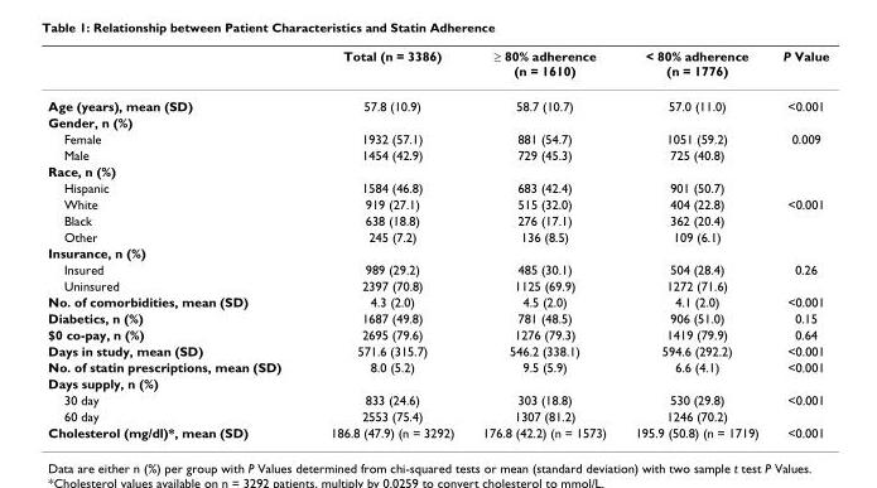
<table><thead><tr><td></td><td>Total (n = 3386)</td><td>≥ 80% adherence (n = 1610)</td><td>&lt; 80% adherence (n = 1776)</td><td>P Value</td></tr></thead><tbody><tr><td>Age (years), mean (SD)</td><td>57.8 (10.9)</td><td>58.7 (10.7)</td><td>57.0 (11.0)</td><td>&lt;0.001</td></tr><tr><td colspan="5">Gender, n (%)</td></tr><tr><td>Female</td><td>1932 (57.1)</td><td>881 (54.7)</td><td>1051 (59.2)</td><td>0.009</td></tr><tr><td>Male</td><td>1454 (42.9)</td><td>729 (45.3)</td><td>725 (40.8)</td><td></td></tr><tr><td colspan="5">Race, n (%)</td></tr><tr><td>Hispanic</td><td>1584 (46.8)</td><td>683 (42.4)</td><td>901 (50.7)</td><td></td></tr><tr><td>White</td><td>919 (27.1)</td><td>515 (32.0)</td><td>404 (22.8)</td><td>&lt;0.001</td></tr><tr><td>Black</td><td>638 (18.8)</td><td>276 (17.1)</td><td>362 (20.4)</td><td></td></tr><tr><td>Other</td><td>245 (7.2)</td><td>136 (8.5)</td><td>109 (6.1)</td><td></td></tr><tr><td colspan="5">Insurance, n (%)</td></tr><tr><td>Insured</td><td>989 (29.2)</td><td>485 (30.1)</td><td>504 (28.4)</td><td>0.26</td></tr><tr><td>Uninsured</td><td>2397 (70.8)</td><td>1125 (69.9)</td><td>1272 (71.6)</td><td></td></tr><tr><td>No. of comorbidities, mean (SD)</td><td>4.3 (2.0)</td><td>4.5 (2.0)</td><td>4.1 (2.0)</td><td>&lt;0.001</td></tr><tr><td>Diabetics, n (%)</td><td>1687 (49.8)</td><td>781 (48.5)</td><td>906 (51.0)</td><td>0.15</td></tr><tr><td>$0 co-pay, n (%)</td><td>2695 (79.6)</td><td>1276 (79.3)</td><td>1419 (79.9)</td><td>0.64</td></tr><tr><td>Days in study, mean (SD)</td><td>571.6 (315.7)</td><td>546.2 (338.1)</td><td>594.6 (292.2)</td><td>&lt;0.001</td></tr><tr><td>No. of statin prescriptions, mean (SD)</td><td>8.0 (5.2)</td><td>9.5 (5.9)</td><td>6.6 (4.1)</td><td>&lt;0.001</td></tr><tr><td colspan="5">Days supply, n (%)</td></tr><tr><td>30 day</td><td>833 (24.6)</td><td>303 (18.8)</td><td>530 (29.8)</td><td>&lt;0.001</td></tr><tr><td>60 day</td><td>2553 (75.4)</td><td>1307 (81.2)</td><td>1246 (70.2)</td><td></td></tr><tr><td>Cholesterol (mg/dl)*, mean (SD)</td><td>186.8 (47.9) (n = 3292)</td><td>176.8 (42.2) (n = 1573)</td><td>195.9 (50.8) (n = 1719)</td><td>&lt;0.001</td></tr></tbody></table>